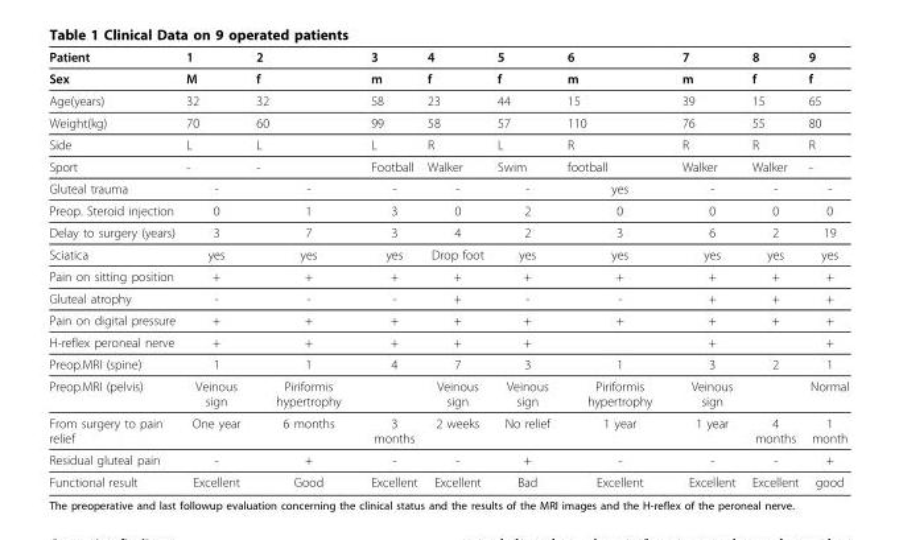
<table><thead><tr><td>Patient</td><td>1</td><td>2</td><td>3</td><td>4</td><td>5</td><td>6</td><td>7</td><td>8</td><td>9</td></tr></thead><tbody><tr><td>Sex</td><td>M</td><td>f</td><td>m</td><td>f</td><td>f</td><td>m</td><td>m</td><td>f</td><td>f</td></tr><tr><td>Age(years)</td><td>32</td><td>32</td><td>58</td><td>23</td><td>44</td><td>15</td><td>39</td><td>15</td><td>65</td></tr><tr><td>Weight(kg)</td><td>70</td><td>60</td><td>99</td><td>58</td><td>57</td><td>110</td><td>76</td><td>55</td><td>80</td></tr><tr><td>Side</td><td>L</td><td>L</td><td>L</td><td>R</td><td>L</td><td>R</td><td>R</td><td>R</td><td>R</td></tr><tr><td>Sport</td><td>-</td><td>-</td><td>Football</td><td>Walker</td><td>Swim</td><td>football</td><td>Walker</td><td>Walker</td><td>-</td></tr><tr><td>Gluteal trauma</td><td>-</td><td>-</td><td>-</td><td>-</td><td>-</td><td>yes</td><td>-</td><td>-</td><td>-</td></tr><tr><td>Preop. Steroid injection</td><td>0</td><td>1</td><td>3</td><td>0</td><td>2</td><td>0</td><td>0</td><td>0</td><td>0</td></tr><tr><td>Delay to surgery (years)</td><td>3</td><td>7</td><td>3</td><td>4</td><td>2</td><td>3</td><td>6</td><td>2</td><td>19</td></tr><tr><td>Sciatica</td><td>yes</td><td>yes</td><td>yes</td><td>Drop foot</td><td>yes</td><td>yes</td><td>yes</td><td>yes</td><td>yes</td></tr><tr><td>Pain on sitting position</td><td>+</td><td>+</td><td>+</td><td>+</td><td>+</td><td>+</td><td>+</td><td>+</td><td>+</td></tr><tr><td>Gluteal atrophy</td><td>-</td><td>-</td><td>-</td><td>+</td><td>-</td><td>-</td><td>+</td><td>+</td><td>+</td></tr><tr><td>Pain on digital pressure</td><td>+</td><td>+</td><td>+</td><td>+</td><td>+</td><td>+</td><td>+</td><td>+</td><td>+</td></tr><tr><td>H-reflex peroneal nerve</td><td>+</td><td>+</td><td>+</td><td>+</td><td>+</td><td></td><td>+</td><td></td><td>+</td></tr><tr><td>Preop.MRI (spine)</td><td>1</td><td>1</td><td>4</td><td>7</td><td>3</td><td>1</td><td>3</td><td>2</td><td>1</td></tr><tr><td>Preop.MRI (pelvis)</td><td>Veinous sign</td><td>Piriformis hypertrophy</td><td></td><td>Veinous sign</td><td>Veinous sign</td><td>Piriformis hypertrophy</td><td>Veinous sign</td><td></td><td>Normal</td></tr><tr><td>From surgery to pain relief</td><td>One year</td><td>6 months</td><td>3 months</td><td>2 weeks</td><td>No relief</td><td>1 year</td><td>1 year</td><td>4 months</td><td>1 month</td></tr><tr><td>Residual gluteal pain</td><td>-</td><td>+</td><td>-</td><td>-</td><td>+</td><td>-</td><td>-</td><td>-</td><td>+</td></tr><tr><td>Functional result</td><td>Excellent</td><td>Good</td><td>Excellent</td><td>Excellent</td><td>Bad</td><td>Excellent</td><td>Excellent</td><td>Excellent</td><td>good</td></tr></tbody></table>